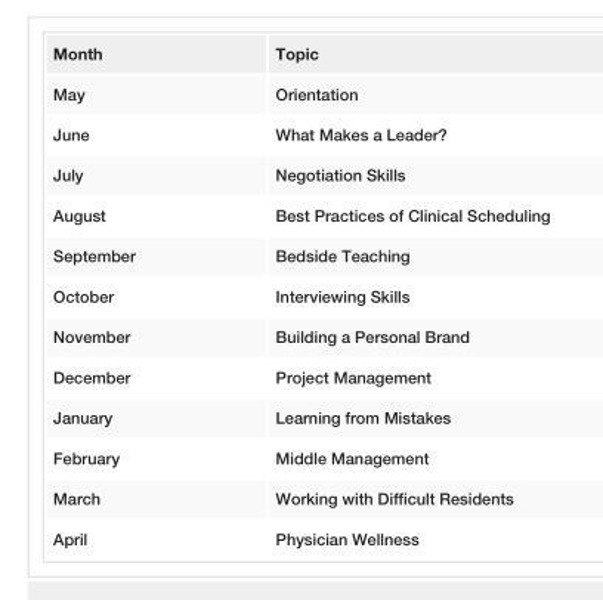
<table><tbody><tr><td>Month</td><td>Topic</td></tr><tr><td>May</td><td>Orientation</td></tr><tr><td>June</td><td>What Makes a Leader?</td></tr><tr><td>July</td><td>Negotiation Skills</td></tr><tr><td>August</td><td>Best Practices of Clinical Scheduling</td></tr><tr><td>September</td><td>Bedside Teaching</td></tr><tr><td>October</td><td>Interviewing Skills</td></tr><tr><td>November</td><td>Building a Personal Brand</td></tr><tr><td>December</td><td>Project Management</td></tr><tr><td>January</td><td>Learning from Mistakes</td></tr><tr><td>February</td><td>Middle Management</td></tr><tr><td>March</td><td>Working with Difficult Residents</td></tr><tr><td>April</td><td>Physician Wellness</td></tr></tbody></table>